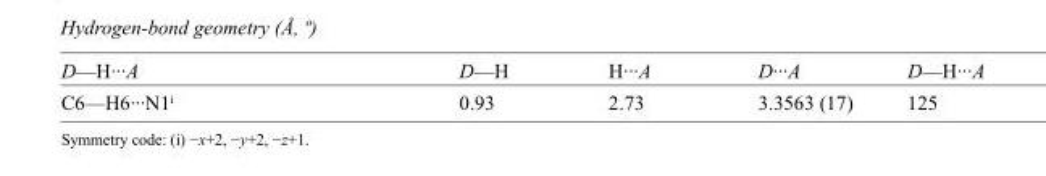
<table><tbody><tr><td>D—H···A</td><td>D—H</td><td>H···A</td><td>D···A</td><td>D—H···A</td></tr><tr><td>C6—H6···N1<sup>i</sup></td><td>0.93</td><td>2.73</td><td>3.3563 (17)</td><td>125</td></tr></tbody></table>